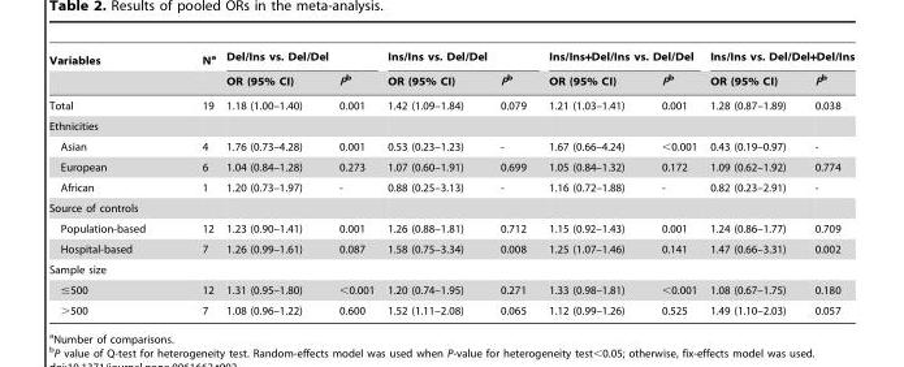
<table><thead><tr><td rowspan="2">Variables</td><td rowspan="2">N<sup>a</sup></td><td colspan="2">Del/Ins vs. Del/Del</td><td colspan="2">Ins/Ins vs. Del/Del</td><td colspan="2">Ins/Ins+Del/Ins vs. Del/Del</td><td colspan="2">Ins/Ins vs. Del/Del+Del/Ins</td></tr><tr><td>OR (95% CI)</td><td>Pb</td><td>OR (95% CI)</td><td>Pb</td><td>OR (95% CI)</td><td>Pb</td><td>OR (95% CI)</td><td>Pb</td></tr></thead><tbody><tr><td>Total</td><td>19</td><td>1.18 (1.00–1.40)</td><td>0.001</td><td>1.42 (1.09–1.84)</td><td>0.079</td><td>1.21 (1.03–1.41)</td><td>0.001</td><td>1.28 (0.87–1.89)</td><td>0.038</td></tr><tr><td colspan="10">Ethnicities</td></tr><tr><td>Asian</td><td>4</td><td>1.76 (0.73–4.28)</td><td>0.001</td><td>0.53 (0.23–1.23)</td><td>-</td><td>1.67 (0.66–4.24)</td><td>&lt;0.001</td><td>0.43 (0.19–0.97)</td><td>-</td></tr><tr><td>European</td><td>6</td><td>1.04 (0.84–1.28)</td><td>0.273</td><td>1.07 (0.60–1.91)</td><td>0.699</td><td>1.05 (0.84–1.32)</td><td>0.172</td><td>1.09 (0.62–1.92)</td><td>0.774</td></tr><tr><td>African</td><td>1</td><td>1.20 (0.73–1.97)</td><td>-</td><td>0.88 (0.25–3.13)</td><td>-</td><td>1.16 (0.72–1.88)</td><td>-</td><td>0.82 (0.23–2.91)</td><td>-</td></tr><tr><td colspan="10">Source of controls</td></tr><tr><td>Population-based</td><td>12</td><td>1.23 (0.90–1.41)</td><td>0.001</td><td>1.26 (0.88–1.81)</td><td>0.712</td><td>1.15 (0.92–1.43)</td><td>0.001</td><td>1.24 (0.86–1.77)</td><td>0.709</td></tr><tr><td>Hospital-based</td><td>7</td><td>1.26 (0.99–1.61)</td><td>0.087</td><td>1.58 (0.75–3.34)</td><td>0.008</td><td>1.25 (1.07–1.46)</td><td>0.141</td><td>1.47 (0.66–3.31)</td><td>0.002</td></tr><tr><td colspan="10">Sample size</td></tr><tr><td>≤500</td><td>12</td><td>1.31 (0.95–1.80)</td><td>&lt;0.001</td><td>1.20 (0.74–1.95)</td><td>0.271</td><td>1.33 (0.98–1.81)</td><td>&lt;0.001</td><td>1.08 (0.67–1.75)</td><td>0.180</td></tr><tr><td>&gt;500</td><td>7</td><td>1.08 (0.96–1.22)</td><td>0.600</td><td>1.52 (1.11–2.08)</td><td>0.065</td><td>1.12 (0.99–1.26)</td><td>0.525</td><td>1.49 (1.10–2.03)</td><td>0.057</td></tr></tbody></table>